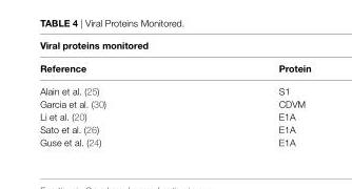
<table><thead><tr><td colspan="2">viral proteins monitored</td></tr><tr><td>Reference</td><td>Protein</td></tr></thead><tbody><tr><td>Alain et al. (25)</td><td>S1</td></tr><tr><td>Garcia et al. (30)</td><td>CDVM</td></tr><tr><td>Li et al. (20)</td><td>E1A</td></tr><tr><td>Sato et al. (26)</td><td>E1A</td></tr><tr><td>Guse et al. (24)</td><td>E1A</td></tr></tbody></table>